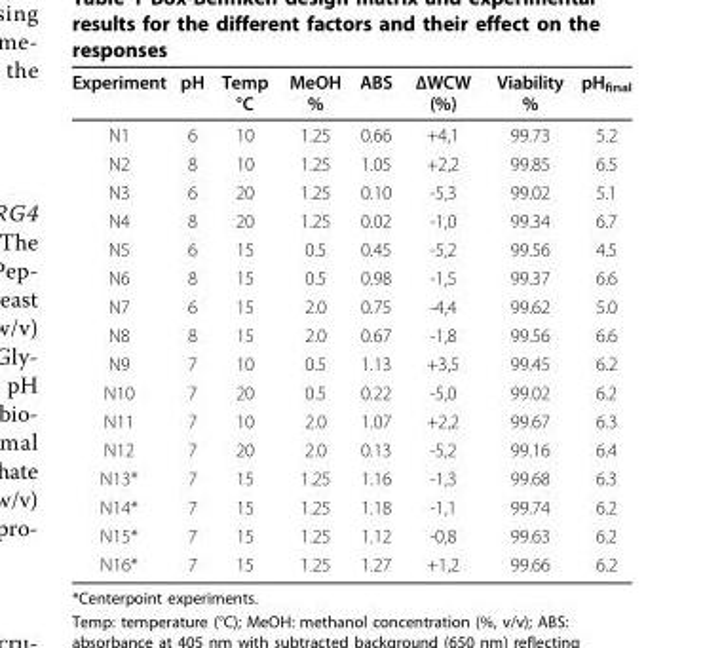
<table><thead><tr><td>Experiment</td><td>pH</td><td>Temp °C</td><td>MeOH %</td><td>ABS</td><td>ΔWCW (%)</td><td>Viability %</td><td>pH<sub>final</sub></td></tr></thead><tbody><tr><td>N1</td><td>6</td><td>10</td><td>1.25</td><td>0.66</td><td>+4,1</td><td>99.73</td><td>5.2</td></tr><tr><td>N2</td><td>8</td><td>10</td><td>1.25</td><td>1.05</td><td>+2,2</td><td>99.85</td><td>6.5</td></tr><tr><td>N3</td><td>6</td><td>20</td><td>1.25</td><td>0.10</td><td>-5,3</td><td>99.02</td><td>5.1</td></tr><tr><td>N4</td><td>8</td><td>20</td><td>1.25</td><td>0.02</td><td>-1,0</td><td>99.34</td><td>6.7</td></tr><tr><td>N5</td><td>6</td><td>15</td><td>0.5</td><td>0.45</td><td>-5,2</td><td>99.56</td><td>4.5</td></tr><tr><td>N6</td><td>8</td><td>15</td><td>0.5</td><td>0.98</td><td>-1,5</td><td>99.37</td><td>6.6</td></tr><tr><td>N7</td><td>6</td><td>15</td><td>2.0</td><td>0.75</td><td>-4,4</td><td>99.62</td><td>5.0</td></tr><tr><td>N8</td><td>8</td><td>15</td><td>2.0</td><td>0.67</td><td>-1,8</td><td>99.56</td><td>6.6</td></tr><tr><td>N9</td><td>7</td><td>10</td><td>0.5</td><td>1.13</td><td>+3,5</td><td>99.45</td><td>6.2</td></tr><tr><td>N10</td><td>7</td><td>20</td><td>0.5</td><td>0.22</td><td>-5,0</td><td>99.02</td><td>6.2</td></tr><tr><td>N11</td><td>7</td><td>10</td><td>2.0</td><td>1.07</td><td>+2,2</td><td>99.67</td><td>6.3</td></tr><tr><td>N12</td><td>7</td><td>20</td><td>2.0</td><td>0.13</td><td>-5,2</td><td>99.16</td><td>6.4</td></tr><tr><td>N13*</td><td>7</td><td>15</td><td>1.25</td><td>1.16</td><td>-1,3</td><td>99.68</td><td>6.3</td></tr><tr><td>N14*</td><td>7</td><td>15</td><td>1.25</td><td>1.18</td><td>-1,1</td><td>99.74</td><td>6.2</td></tr><tr><td>N15*</td><td>7</td><td>15</td><td>1.25</td><td>1.12</td><td>-0,8</td><td>99.63</td><td>6.2</td></tr><tr><td>N16*</td><td>7</td><td>15</td><td>1.25</td><td>1.27</td><td>+1,2</td><td>99.66</td><td>6.2</td></tr></tbody></table>